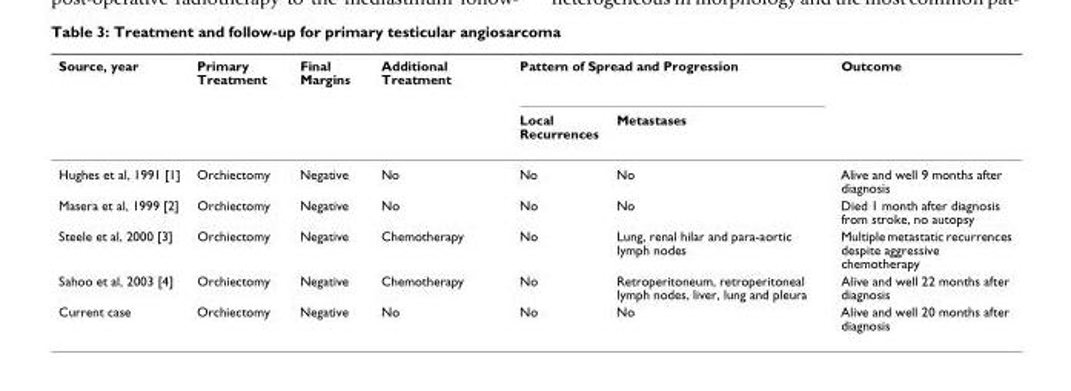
<table><thead><tr><td rowspan="2">Source, year</td><td rowspan="2">Primary Treatment</td><td rowspan="2">Final Margins</td><td rowspan="2">Additional Treatment</td><td colspan="2">Pattern of Spread and Progression</td><td rowspan="2">Outcome</td></tr><tr><td>Local Recurrences</td><td>Metastases</td></tr></thead><tbody><tr><td>Hughes et al, 1991 [1]</td><td>Orchiectomy</td><td>Negative</td><td>No</td><td>No</td><td>No</td><td>Alive and well 9 months after diagnosis</td></tr><tr><td>Masera et al, 1999 [2]</td><td>Orchiectomy</td><td>Negative</td><td>No</td><td>No</td><td>No</td><td>Died 1 month after diagnosis from stroke, no autopsy</td></tr><tr><td>Steele et al, 2000 [3]</td><td>Orchiectomy</td><td>Negative</td><td>Chemotherapy</td><td>No</td><td>Lung, renal hilar and para-aortic lymph nodes</td><td>Multiple metastatic recurrences despite aggressive chemotherapy</td></tr><tr><td>Sahoo et al, 2003 [4]</td><td>Orchiectomy</td><td>Negative</td><td>Chemotherapy</td><td>No</td><td>Retroperitoneum, retroperitoneal lymph nodes, liver, lung and pleura</td><td>Alive and well 22 months after diagnosis</td></tr><tr><td>Current case</td><td>Orchiectomy</td><td>Negative</td><td>No</td><td>No</td><td>No</td><td>Alive and well 20 months after diagnosis</td></tr></tbody></table>